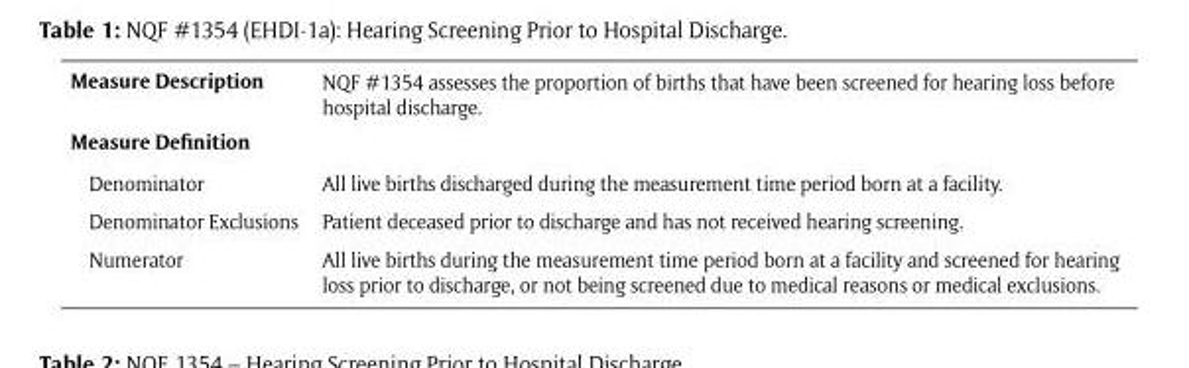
<table><tbody><tr><td>Measure Description</td><td>NQF #1354 assesses the proportion of births that have been screened for hearing loss before hospital discharge.</td></tr><tr><td colspan="2">Measure Definition</td></tr><tr><td>Denominator</td><td>All live births discharged during the measurement time period born at a facility.</td></tr><tr><td>Denominator Exclusions</td><td>Patient deceased prior to discharge and has not received hearing screening.</td></tr><tr><td>Numerator</td><td>All live births during the measurement time period born at a facility and screened for hearing loss prior to discharge, or not being screened due to medical reasons or medical exclusions.</td></tr></tbody></table>